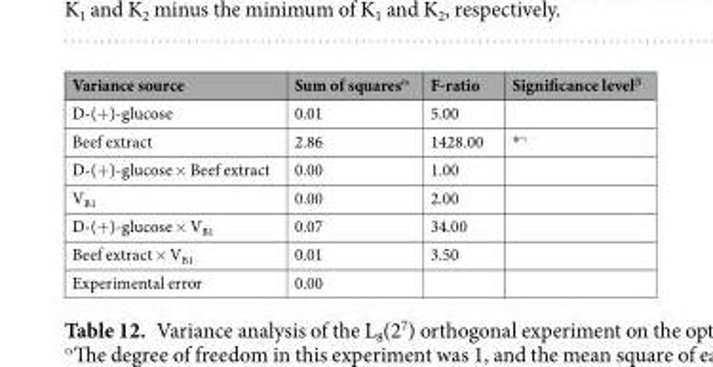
<table><thead><tr><td>Variance source</td><td>Sum of squares<sup>α</sup></td><td>F-ratio</td><td>Significance level<sup>β</sup></td></tr></thead><tbody><tr><td>D-(+)-glucose</td><td>0.01</td><td>5.00</td><td></td></tr><tr><td>Beef extract</td><td>2.86</td><td>1428.00</td><td>*<sup>γ</sup></td></tr><tr><td>D-(+)-glucose × Beef extract</td><td>0.00</td><td>1.00</td><td></td></tr><tr><td>V<sub>B1</sub></td><td>0.00</td><td>2.00</td><td></td></tr><tr><td>D-(+)-glucose × V<sub>B1</sub></td><td>0.07</td><td>34.00</td><td></td></tr><tr><td>Beef extract × V<sub>B1</sub></td><td>0.01</td><td>3.50</td><td></td></tr><tr><td>Experimental error</td><td>0.00</td><td></td><td></td></tr></tbody></table>